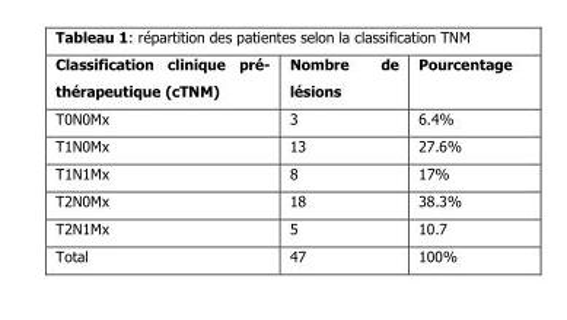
<table><thead><tr><td>Classification clinique pré- thérapeutique (cTNM)</td><td>Nombre de lésions</td><td>Pourcentage</td></tr></thead><tbody><tr><td>T0N0Mx</td><td>3</td><td>6.4%</td></tr><tr><td>T1N0Mx</td><td>13</td><td>27.6%</td></tr><tr><td>T1N1Mx</td><td>8</td><td>17%</td></tr><tr><td>T2N0Mx</td><td>18</td><td>38.3%</td></tr><tr><td>T2N1Mx</td><td>5</td><td>10.7</td></tr><tr><td>Total</td><td>47</td><td>100%</td></tr></tbody></table>